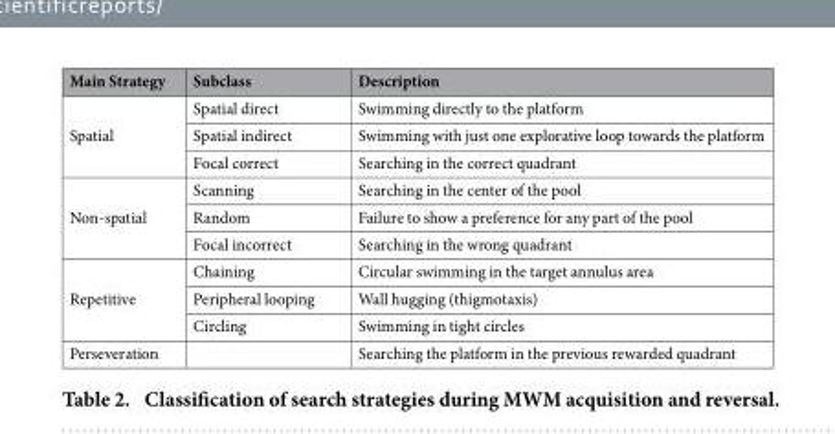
<table><thead><tr><td>Main Strategy</td><td>Subclass</td><td>Description</td></tr></thead><tbody><tr><td rowspan="3">Spatial</td><td>Spatial direct</td><td>Swimming directly to the platform</td></tr><tr><td>Spatial indirect</td><td>Swimming with just one explorative loop towards the platform</td></tr><tr><td>Focal correct</td><td>Searching in the correct quadrant</td></tr><tr><td rowspan="3">Non-spatial</td><td>Scanning</td><td>Searching in the center of the pool</td></tr><tr><td>Random</td><td>Failure to show a preference for any part of the pool</td></tr><tr><td>Focal incorrect</td><td>Searching in the wrong quadrant</td></tr><tr><td rowspan="3">Repetitive</td><td>Chaining</td><td>Circular swimming in the target annulus area</td></tr><tr><td>Peripheral looping</td><td>Wall hugging (thigmotaxis)</td></tr><tr><td>Circling</td><td>Swimming in tight circles</td></tr><tr><td>Perseveration</td><td></td><td>Searching the platform in the previous rewarded quadrant</td></tr></tbody></table>